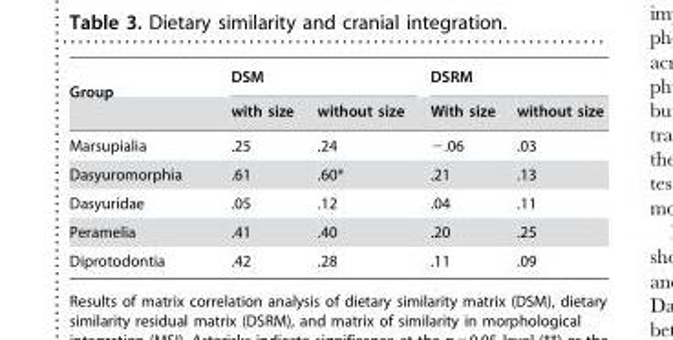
<table><thead><tr><td rowspan="2">Group</td><td colspan="2">DSM</td><td colspan="2">DSRM</td></tr><tr><td>with size</td><td>without size</td><td>With size</td><td>without size</td></tr></thead><tbody><tr><td>Marsupialia</td><td>.25</td><td>.24</td><td>−.06</td><td>.03</td></tr><tr><td>Dasyuromorphia</td><td>.61</td><td>.60*</td><td>.21</td><td>.13</td></tr><tr><td>Dasyuridae</td><td>.05</td><td>.12</td><td>.04</td><td>.11</td></tr><tr><td>Peramelia</td><td>.41</td><td>.40</td><td>.20</td><td>.25</td></tr><tr><td>Diprotodontia</td><td>.42</td><td>.28</td><td>.11</td><td>.09</td></tr></tbody></table>